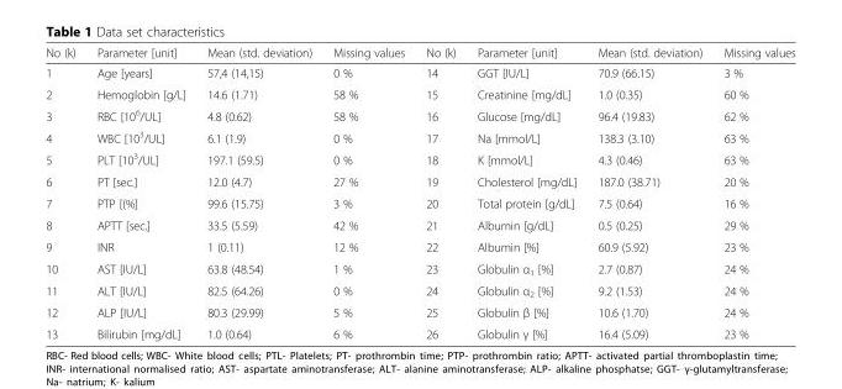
<table><thead><tr><td>No (k)</td><td>Parameter [unit]</td><td>Mean (std. deviation)</td><td>Missing values</td><td>No (k)</td><td>Parameter [unit]</td><td>Mean (std. deviation)</td><td>Missing values</td></tr></thead><tbody><tr><td>1</td><td>Age [years]</td><td>57,4 (14,15)</td><td>0 %</td><td>14</td><td>GGT [IU/L]</td><td>70.9 (66.15)</td><td>3 %</td></tr><tr><td>2</td><td>Hemoglobin [g/L]</td><td>14.6 (1.71)</td><td>58 %</td><td>15</td><td>Creatinine [mg/dL]</td><td>1.0 (0.35)</td><td>60 %</td></tr><tr><td>3</td><td>RBC [10<sup>6</sup>/UL]</td><td>4.8 (0.62)</td><td>58 %</td><td>16</td><td>Glucose [mg/dL]</td><td>96.4 (19.83)</td><td>62 %</td></tr><tr><td>4</td><td>WBC [10<sup>3</sup>/UL]</td><td>6.1 (1.9)</td><td>0 %</td><td>17</td><td>Na [mmol/L]</td><td>138.3 (3.10)</td><td>63 %</td></tr><tr><td>5</td><td>PLT [10<sup>3</sup>/UL]</td><td>197.1 (59.5)</td><td>0 %</td><td>18</td><td>K [mmol/L]</td><td>4.3 (0.46)</td><td>63 %</td></tr><tr><td>6</td><td>PT [sec.]</td><td>12.0 (4.7)</td><td>27 %</td><td>19</td><td>Cholesterol [mg/dL]</td><td>187.0 (38.71)</td><td>20 %</td></tr><tr><td>7</td><td>PTP [(%]</td><td>99.6 (15.75)</td><td>3 %</td><td>20</td><td>Total protein [g/dL]</td><td>7.5 (0.64)</td><td>16 %</td></tr><tr><td>8</td><td>APTT [sec.]</td><td>33.5 (5.59)</td><td>42 %</td><td>21</td><td>Albumin [g/dL]</td><td>0.5 (0.25)</td><td>29 %</td></tr><tr><td>9</td><td>INR</td><td>1 (0.11)</td><td>12 %</td><td>22</td><td>Albumin [%]</td><td>60.9 (5.92)</td><td>23 %</td></tr><tr><td>10</td><td>AST [IU/L]</td><td>63.8 (48.54)</td><td>1 %</td><td>23</td><td>Globulin α<sub>1</sub> [%]</td><td>2.7 (0.87)</td><td>24 %</td></tr><tr><td>11</td><td>ALT [IU/L]</td><td>82.5 (64.26)</td><td>0 %</td><td>24</td><td>Globulin α<sub>2</sub> [%]</td><td>9.2 (1.53)</td><td>24 %</td></tr><tr><td>12</td><td>ALP [IU/L]</td><td>80.3 (29.99)</td><td>5 %</td><td>25</td><td>Globulin β [%]</td><td>10.6 (1.70)</td><td>24 %</td></tr><tr><td>13</td><td>Bilirubin [mg/dL]</td><td>1.0 (0.64)</td><td>6 %</td><td>26</td><td>Globulin γ [%]</td><td>16.4 (5.09)</td><td>23 %</td></tr></tbody></table>